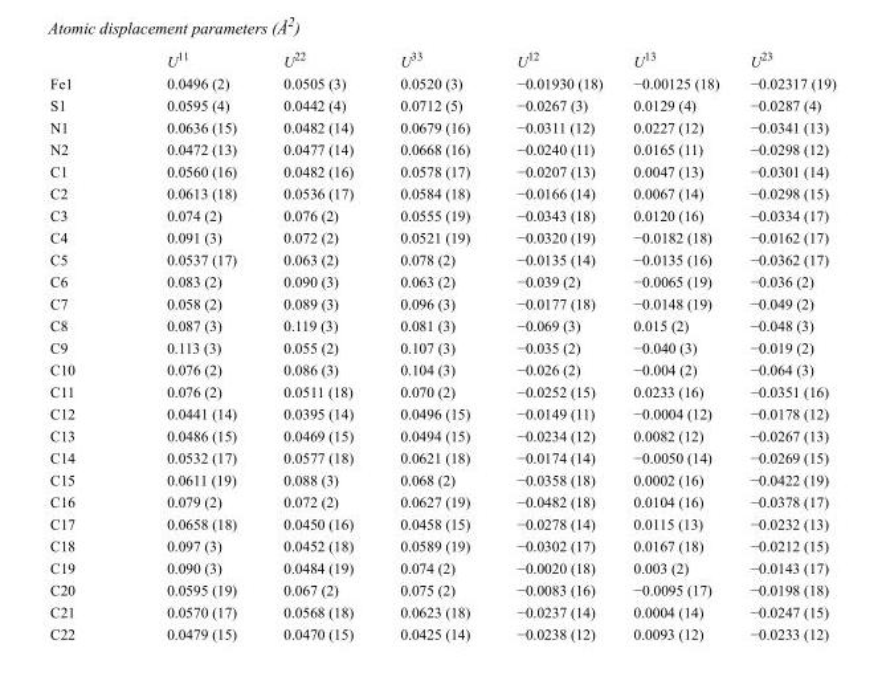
<table><thead><tr><td></td><td>U<sup>11</sup></td><td>U<sup>22</sup></td><td>U<sup>33</sup></td><td>U<sup>12</sup></td><td>U<sup>13</sup></td><td>U<sup>23</sup></td></tr></thead><tbody><tr><td>Fe1</td><td>0.0496 (2)</td><td>0.0505 (3)</td><td>0.0520 (3)</td><td>−0.01930 (18)</td><td>−0.00125 (18)</td><td>−0.02317 (19)</td></tr><tr><td>S1</td><td>0.0595 (4)</td><td>0.0442 (4)</td><td>0.0712 (5)</td><td>−0.0267 (3)</td><td>0.0129 (4)</td><td>−0.0287 (4)</td></tr><tr><td>N1</td><td>0.0636 (15)</td><td>0.0482 (14)</td><td>0.0679 (16)</td><td>−0.0311 (12)</td><td>0.0227 (12)</td><td>−0.0341 (13)</td></tr><tr><td>N2</td><td>0.0472 (13)</td><td>0.0477 (14)</td><td>0.0668 (16)</td><td>−0.0240 (11)</td><td>0.0165 (11)</td><td>−0.0298 (12)</td></tr><tr><td>C1</td><td>0.0560 (16)</td><td>0.0482 (16)</td><td>0.0578 (17)</td><td>−0.0207 (13)</td><td>0.0047 (13)</td><td>−0.0301 (14)</td></tr><tr><td>C2</td><td>0.0613 (18)</td><td>0.0536 (17)</td><td>0.0584 (18)</td><td>−0.0166 (14)</td><td>0.0067 (14)</td><td>−0.0298 (15)</td></tr><tr><td>C3</td><td>0.074 (2)</td><td>0.076 (2)</td><td>0.0555 (19)</td><td>−0.0343 (18)</td><td>0.0120 (16)</td><td>−0.0334 (17)</td></tr><tr><td>C4</td><td>0.091 (3)</td><td>0.072 (2)</td><td>0.0521 (19)</td><td>−0.0320 (19)</td><td>−0.0182 (18)</td><td>−0.0162 (17)</td></tr><tr><td>C5</td><td>0.0537 (17)</td><td>0.063 (2)</td><td>0.078 (2)</td><td>−0.0135 (14)</td><td>−0.0135 (16)</td><td>−0.0362 (17)</td></tr><tr><td>C6</td><td>0.083 (2)</td><td>0.090 (3)</td><td>0.063 (2)</td><td>−0.039 (2)</td><td>−0.0065 (19)</td><td>−0.036 (2)</td></tr><tr><td>C7</td><td>0.058 (2)</td><td>0.089 (3)</td><td>0.096 (3)</td><td>−0.0177 (18)</td><td>−0.0148 (19)</td><td>−0.049 (2)</td></tr><tr><td>C8</td><td>0.087 (3)</td><td>0.119 (3)</td><td>0.081 (3)</td><td>−0.069 (3)</td><td>0.015 (2)</td><td>−0.048 (3)</td></tr><tr><td>C9</td><td>0.113 (3)</td><td>0.055 (2)</td><td>0.107 (3)</td><td>−0.035 (2)</td><td>−0.040 (3)</td><td>−0.019 (2)</td></tr><tr><td>C10</td><td>0.076 (2)</td><td>0.086 (3)</td><td>0.104 (3)</td><td>−0.026 (2)</td><td>−0.004 (2)</td><td>−0.064 (3)</td></tr><tr><td>C11</td><td>0.076 (2)</td><td>0.0511 (18)</td><td>0.070 (2)</td><td>−0.0252 (15)</td><td>0.0233 (16)</td><td>−0.0351 (16)</td></tr><tr><td>C12</td><td>0.0441 (14)</td><td>0.0395 (14)</td><td>0.0496 (15)</td><td>−0.0149 (11)</td><td>−0.0004 (12)</td><td>−0.0178 (12)</td></tr><tr><td>C13</td><td>0.0486 (15)</td><td>0.0469 (15)</td><td>0.0494 (15)</td><td>−0.0234 (12)</td><td>0.0082 (12)</td><td>−0.0267 (13)</td></tr><tr><td>C14</td><td>0.0532 (17)</td><td>0.0577 (18)</td><td>0.0621 (18)</td><td>−0.0174 (14)</td><td>−0.0050 (14)</td><td>−0.0269 (15)</td></tr><tr><td>C15</td><td>0.0611 (19)</td><td>0.088 (3)</td><td>0.068 (2)</td><td>−0.0358 (18)</td><td>0.0002 (16)</td><td>−0.0422 (19)</td></tr><tr><td>C16</td><td>0.079 (2)</td><td>0.072 (2)</td><td>0.0627 (19)</td><td>−0.0482 (18)</td><td>0.0104 (16)</td><td>−0.0378 (17)</td></tr><tr><td>C17</td><td>0.0658 (18)</td><td>0.0450 (16)</td><td>0.0458 (15)</td><td>−0.0278 (14)</td><td>0.0115 (13)</td><td>−0.0232 (13)</td></tr><tr><td>C18</td><td>0.097 (3)</td><td>0.0452 (18)</td><td>0.0589 (19)</td><td>−0.0302 (17)</td><td>0.0167 (18)</td><td>−0.0212 (15)</td></tr><tr><td>C19</td><td>0.090 (3)</td><td>0.0484 (19)</td><td>0.074 (2)</td><td>−0.0020 (18)</td><td>0.003 (2)</td><td>−0.0143 (17)</td></tr><tr><td>C20</td><td>0.0595 (19)</td><td>0.067 (2)</td><td>0.075 (2)</td><td>−0.0083 (16)</td><td>−0.0095 (17)</td><td>−0.0198 (18)</td></tr><tr><td>C21</td><td>0.0570 (17)</td><td>0.0568 (18)</td><td>0.0623 (18)</td><td>−0.0237 (14)</td><td>0.0004 (14)</td><td>−0.0247 (15)</td></tr><tr><td>C22</td><td>0.0479 (15)</td><td>0.0470 (15)</td><td>0.0425 (14)</td><td>−0.0238 (12)</td><td>0.0093 (12)</td><td>−0.0233 (12)</td></tr></tbody></table>